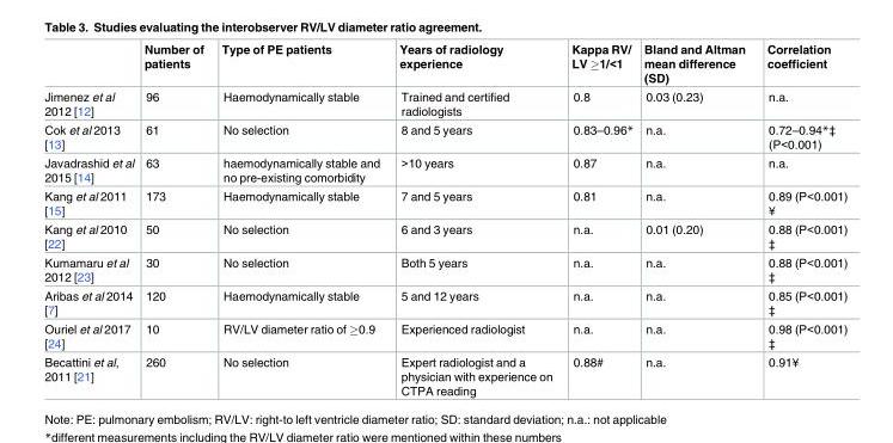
<table><thead><tr><td></td><td>Number of patients</td><td>Type of PE patients</td><td>Years of radiology experience</td><td>Kappa RV/ LV ≥1/&lt;1</td><td>Bland and Altman mean difference (SD)</td><td>Correlation coefficient</td></tr></thead><tbody><tr><td>Jimenez et al 2012 [12]</td><td>96</td><td>Haemodynamically stable</td><td>Trained and certified radiologists</td><td>0.8</td><td>0.03 (0.23)</td><td>n.a.</td></tr><tr><td>Cok et al 2013 [13]</td><td>61</td><td>No selection</td><td>8 and 5 years</td><td>0.83–0.96*</td><td>n.a.</td><td>0.72–0.94*‡ (P&lt;0.001)</td></tr><tr><td>Javadrashid et al 2015 [14]</td><td>63</td><td>haemodynamically stable and no pre-existing comorbidity</td><td>&gt;10 years</td><td>0.87</td><td>n.a.</td><td>n.a.</td></tr><tr><td>Kang et al 2011 [15]</td><td>173</td><td>Haemodynamically stable</td><td>7 and 5 years</td><td>0.81</td><td>n.a.</td><td>0.89 (P&lt;0.001) ¥</td></tr><tr><td>Kang et al 2010 [22]</td><td>50</td><td>No selection</td><td>6 and 3 years</td><td>n.a.</td><td>0.01 (0.20)</td><td>0.88 (P&lt;0.001) ‡</td></tr><tr><td>Kumamaru et al 2012 [23]</td><td>30</td><td>No selection</td><td>Both 5 years</td><td>n.a.</td><td>n.a.</td><td>0.88 (P&lt;0.001) ‡</td></tr><tr><td>Aribas et al 2014 [7]</td><td>120</td><td>Haemodynamically stable</td><td>5 and 12 years</td><td>n.a.</td><td>n.a.</td><td>0.85 (P&lt;0.001) ‡</td></tr><tr><td>Ouriel et al 2017 [24]</td><td>10</td><td>RV/LV diameter ratio of ≥0.9</td><td>Experienced radiologist</td><td>n.a.</td><td>n.a.</td><td>0.98 (P&lt;0.001) ‡</td></tr><tr><td>Becattini et al, 2011 [21]</td><td>260</td><td>No selection</td><td>Expert radiologist and a physician with experience on CTPA reading</td><td>0.88#</td><td>n.a.</td><td>0.91¥</td></tr></tbody></table>